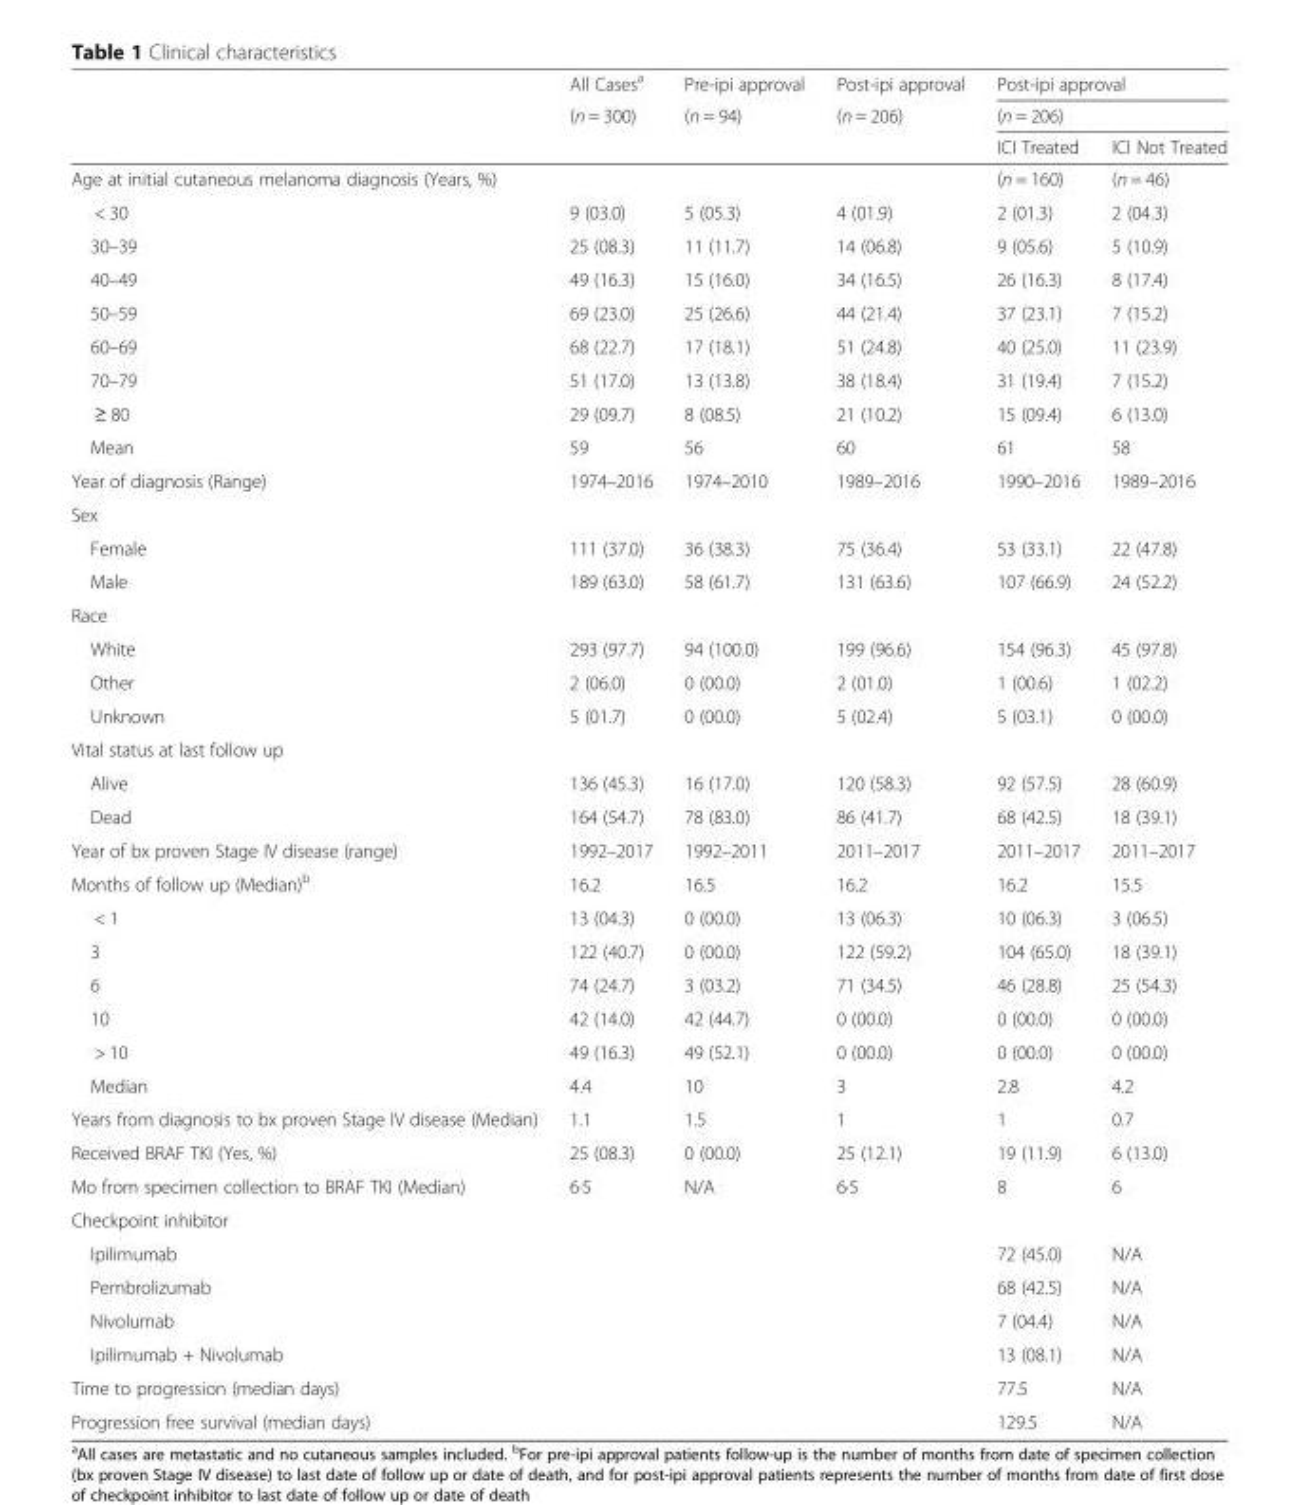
<table><thead><tr><td rowspan="3"></td><td rowspan="3">All Cases<sup>a</sup> (n = 300)</td><td rowspan="3">Pre-ipi approval (n = 94)</td><td rowspan="3">Post-ipi approval (n = 206)</td><td rowspan="2" colspan="2">Post-ipi approval (n = 206)</td></tr><tr></tr><tr><td>ICI Treated</td><td>ICI Not Treated</td></tr></thead><tbody><tr><td>Age at initial cutaneous melanoma diagnosis (Years, %)</td><td></td><td></td><td></td><td>(n = 160)</td><td>(n = 46)</td></tr><tr><td>&lt; 30</td><td>9 (03.0)</td><td>5 (05.3)</td><td>4 (01.9)</td><td>2 (01.3)</td><td>2 (04.3)</td></tr><tr><td>30–39</td><td>25 (08.3)</td><td>11 (11.7)</td><td>14 (06.8)</td><td>9 (05.6)</td><td>5 (10.9)</td></tr><tr><td>40–49</td><td>49 (16.3)</td><td>15 (16.0)</td><td>34 (16.5)</td><td>26 (16.3)</td><td>8 (17.4)</td></tr><tr><td>50–59</td><td>69 (23.0)</td><td>25 (26.6)</td><td>44 (21.4)</td><td>37 (23.1)</td><td>7 (15.2)</td></tr><tr><td>60–69</td><td>68 (22.7)</td><td>17 (18.1)</td><td>51 (24.8)</td><td>40 (25.0)</td><td>11 (23.9)</td></tr><tr><td>70–79</td><td>51 (17.0)</td><td>13 (13.8)</td><td>38 (18.4)</td><td>31 (19.4)</td><td>7 (15.2)</td></tr><tr><td>≥ 80</td><td>29 (09.7)</td><td>8 (08.5)</td><td>21 (10.2)</td><td>15 (09.4)</td><td>6 (13.0)</td></tr><tr><td>Mean</td><td>59</td><td>56</td><td>60</td><td>61</td><td>58</td></tr><tr><td>Year of diagnosis (Range)</td><td>1974–2016</td><td>1974–2010</td><td>1989–2016</td><td>1990–2016</td><td>1989–2016</td></tr><tr><td colspan="6">Sex</td></tr><tr><td>Female</td><td>111 (37.0)</td><td>36 (38.3)</td><td>75 (36.4)</td><td>53 (33.1)</td><td>22 (47.8)</td></tr><tr><td>Male</td><td>189 (63.0)</td><td>58 (61.7)</td><td>131 (63.6)</td><td>107 (66.9)</td><td>24 (52.2)</td></tr><tr><td colspan="6">Race</td></tr><tr><td>White</td><td>293 (97.7)</td><td>94 (100.0)</td><td>199 (96.6)</td><td>154 (96.3)</td><td>45 (97.8)</td></tr><tr><td>Other</td><td>2 (06.0)</td><td>0 (00.0)</td><td>2 (01.0)</td><td>1 (00.6)</td><td>1 (02.2)</td></tr><tr><td>Unknown</td><td>5 (01.7)</td><td>0 (00.0)</td><td>5 (02.4)</td><td>5 (03.1)</td><td>0 (00.0)</td></tr><tr><td colspan="6">Vital status at last follow up</td></tr><tr><td>Alive</td><td>136 (45.3)</td><td>16 (17.0)</td><td>120 (58.3)</td><td>92 (57.5)</td><td>28 (60.9)</td></tr><tr><td>Dead</td><td>164 (54.7)</td><td>78 (83.0)</td><td>86 (41.7)</td><td>68 (42.5)</td><td>18 (39.1)</td></tr><tr><td>Year of bx proven Stage IV disease (range)</td><td>1992–2017</td><td>1992–2011</td><td>2011–2017</td><td>2011–2017</td><td>2011–2017</td></tr><tr><td>Months of follow up (Median)<sup>b</sup></td><td>16.2</td><td>16.5</td><td>16.2</td><td>16.2</td><td>15.5</td></tr><tr><td>&lt; 1</td><td>13 (04.3)</td><td>0 (00.0)</td><td>13 (06.3)</td><td>10 (06.3)</td><td>3 (06.5)</td></tr><tr><td>3</td><td>122 (40.7)</td><td>0 (00.0)</td><td>122 (59.2)</td><td>104 (65.0)</td><td>18 (39.1)</td></tr><tr><td>6</td><td>74 (24.7)</td><td>3 (03.2)</td><td>71 (34.5)</td><td>46 (28.8)</td><td>25 (54.3)</td></tr><tr><td>10</td><td>42 (14.0)</td><td>42 (44.7)</td><td>0 (00.0)</td><td>0 (00.0)</td><td>0 (00.0)</td></tr><tr><td>&gt; 10</td><td>49 (16.3)</td><td>49 (52.1)</td><td>0 (00.0)</td><td>0 (00.0)</td><td>0 (00.0)</td></tr><tr><td>Median</td><td>4.4</td><td>10</td><td>3</td><td>2.8</td><td>4.2</td></tr><tr><td>Years from diagnosis to bx proven Stage IV disease (Median)</td><td>1.1</td><td>1.5</td><td>1</td><td>1</td><td>0.7</td></tr><tr><td>Received BRAF TKI (Yes, %)</td><td>25 (08.3)</td><td>0 (00.0)</td><td>25 (12.1)</td><td>19 (11.9)</td><td>6 (13.0)</td></tr><tr><td>Mo from specimen collection to BRAF TKI (Median)</td><td>6·5</td><td>N/A</td><td>6·5</td><td>8</td><td>6</td></tr><tr><td colspan="6">Checkpoint inhibitor</td></tr><tr><td colspan="3">Ipilimumab</td><td></td><td>72 (45.0)</td><td>N/A</td></tr><tr><td colspan="3">Pembrolizumab</td><td></td><td>68 (42.5)</td><td>N/A</td></tr><tr><td colspan="3">Nivolumab</td><td></td><td>7 (04.4)</td><td>N/A</td></tr><tr><td colspan="3">Ipilimumab + Nivolumab</td><td></td><td>13 (08.1)</td><td>N/A</td></tr><tr><td colspan="3">Time to progression (median days)</td><td></td><td>77.5</td><td>N/A</td></tr><tr><td colspan="3">Progression free survival (median days)</td><td></td><td>129.5</td><td>N/A</td></tr></tbody></table>